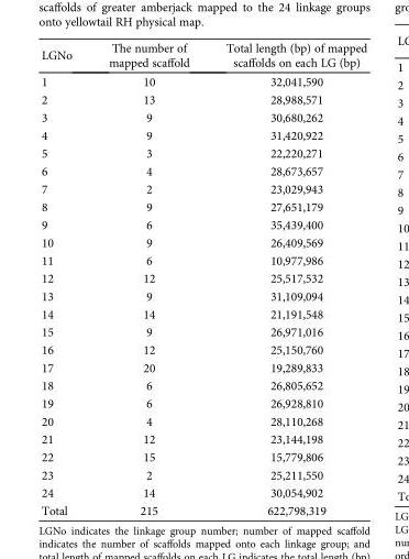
<table><thead><tr><td>LGNo</td><td>The number of mapped scaffold</td><td>Total length (bp) of mapped scaffolds on each LG (bp)</td></tr></thead><tbody><tr><td>1</td><td>10</td><td>32,041,590</td></tr><tr><td>2</td><td>13</td><td>28,988,571</td></tr><tr><td>3</td><td>9</td><td>30,680,262</td></tr><tr><td>4</td><td>9</td><td>31,420,922</td></tr><tr><td>5</td><td>3</td><td>22,220,271</td></tr><tr><td>6</td><td>4</td><td>28,673,657</td></tr><tr><td>7</td><td>2</td><td>23,029,943</td></tr><tr><td>8</td><td>9</td><td>27,651,179</td></tr><tr><td>9</td><td>6</td><td>35,439,400</td></tr><tr><td>10</td><td>9</td><td>26,409,569</td></tr><tr><td>11</td><td>6</td><td>10,977,986</td></tr><tr><td>12</td><td>12</td><td>25,517,532</td></tr><tr><td>13</td><td>9</td><td>31,109,094</td></tr><tr><td>14</td><td>14</td><td>21,191,548</td></tr><tr><td>15</td><td>9</td><td>26,971,016</td></tr><tr><td>16</td><td>12</td><td>25,150,760</td></tr><tr><td>17</td><td>20</td><td>19,289,833</td></tr><tr><td>18</td><td>6</td><td>26,805,652</td></tr><tr><td>19</td><td>6</td><td>26,928,810</td></tr><tr><td>20</td><td>4</td><td>28,110,268</td></tr><tr><td>21</td><td>12</td><td>23,144,198</td></tr><tr><td>22</td><td>15</td><td>15,779,806</td></tr><tr><td>23</td><td>2</td><td>25,211,550</td></tr><tr><td>24</td><td>14</td><td>30,054,902</td></tr><tr><td>Total</td><td>215</td><td>622,798,319</td></tr></tbody></table>